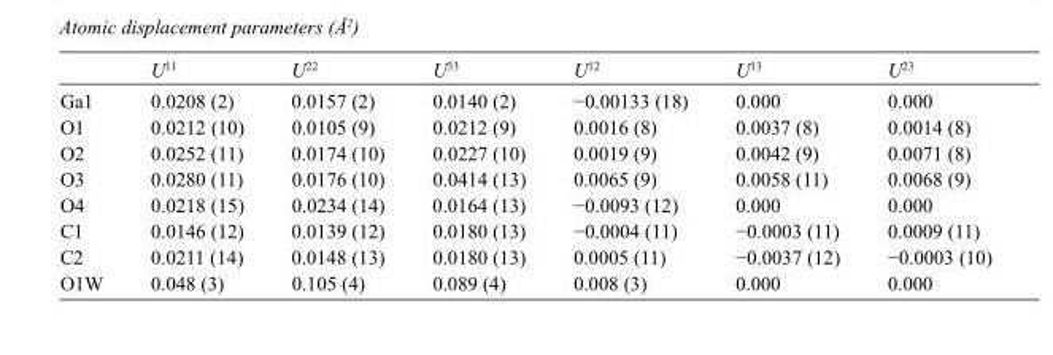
<table><thead><tr><td></td><td>U<sup>11</sup></td><td>U<sup>22</sup></td><td>U<sup>33</sup></td><td>U<sup>12</sup></td><td>U<sup>13</sup></td><td>U<sup>23</sup></td></tr></thead><tbody><tr><td>Ga1</td><td>0.0208 (2)</td><td>0.0157 (2)</td><td>0.0140 (2)</td><td>−0.00133 (18)</td><td>0.000</td><td>0.000</td></tr><tr><td>O1</td><td>0.0212 (10)</td><td>0.0105 (9)</td><td>0.0212 (9)</td><td>0.0016 (8)</td><td>0.0037 (8)</td><td>0.0014 (8)</td></tr><tr><td>O2</td><td>0.0252 (11)</td><td>0.0174 (10)</td><td>0.0227 (10)</td><td>0.0019 (9)</td><td>0.0042 (9)</td><td>0.0071 (8)</td></tr><tr><td>O3</td><td>0.0280 (11)</td><td>0.0176 (10)</td><td>0.0414 (13)</td><td>0.0065 (9)</td><td>0.0058 (11)</td><td>0.0068 (9)</td></tr><tr><td>O4</td><td>0.0218 (15)</td><td>0.0234 (14)</td><td>0.0164 (13)</td><td>−0.0093 (12)</td><td>0.000</td><td>0.000</td></tr><tr><td>C1</td><td>0.0146 (12)</td><td>0.0139 (12)</td><td>0.0180 (13)</td><td>−0.0004 (11)</td><td>−0.0003 (11)</td><td>0.0009 (11)</td></tr><tr><td>C2</td><td>0.0211 (14)</td><td>0.0148 (13)</td><td>0.0180 (13)</td><td>0.0005 (11)</td><td>−0.0037 (12)</td><td>−0.0003 (10)</td></tr><tr><td>O1W</td><td>0.048 (3)</td><td>0.105 (4)</td><td>0.089 (4)</td><td>0.008 (3)</td><td>0.000</td><td>0.000</td></tr></tbody></table>